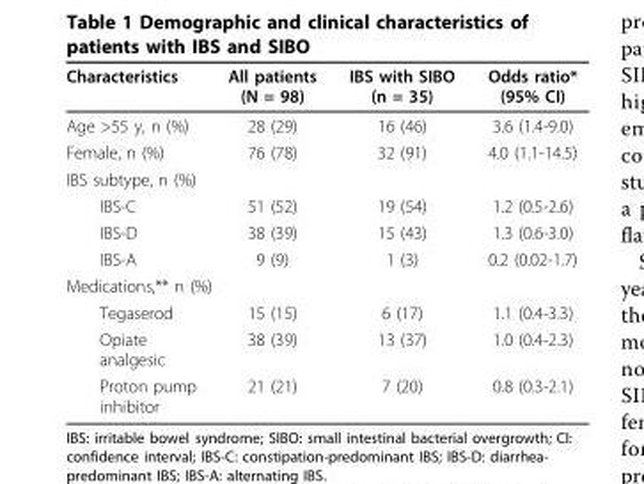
<table><thead><tr><td>Characteristics</td><td>All patients (N = 98)</td><td>IBS with SIBO (n = 35)</td><td>Odds ratio* (95% CI)</td></tr></thead><tbody><tr><td>Age &gt;55 y, n (%)</td><td>28 (29)</td><td>16 (46)</td><td>3.6 (1.4-9.0)</td></tr><tr><td>Female, n (%)</td><td>76 (78)</td><td>32 (91)</td><td>4.0 (1.1-14.5)</td></tr><tr><td colspan="4">IBS subtype, n (%)</td></tr><tr><td>IBS-C</td><td>51 (52)</td><td>19 (54)</td><td>1.2 (0.5-2.6)</td></tr><tr><td>IBS-D</td><td>38 (39)</td><td>15 (43)</td><td>1.3 (0.6-3.0)</td></tr><tr><td>IBS-A</td><td>9 (9)</td><td>1 (3)</td><td>0.2 (0.02-1.7)</td></tr><tr><td colspan="4">Medications,** n (%)</td></tr><tr><td>Tegaserod</td><td>15 (15)</td><td>6 (17)</td><td>1.1 (0.4-3.3)</td></tr><tr><td>Opiate analgesic</td><td>38 (39)</td><td>13 (37)</td><td>1.0 (0.4-2.3)</td></tr><tr><td>Proton pump inhibitor</td><td>21 (21)</td><td>7 (20)</td><td>0.8 (0.3-2.1)</td></tr></tbody></table>